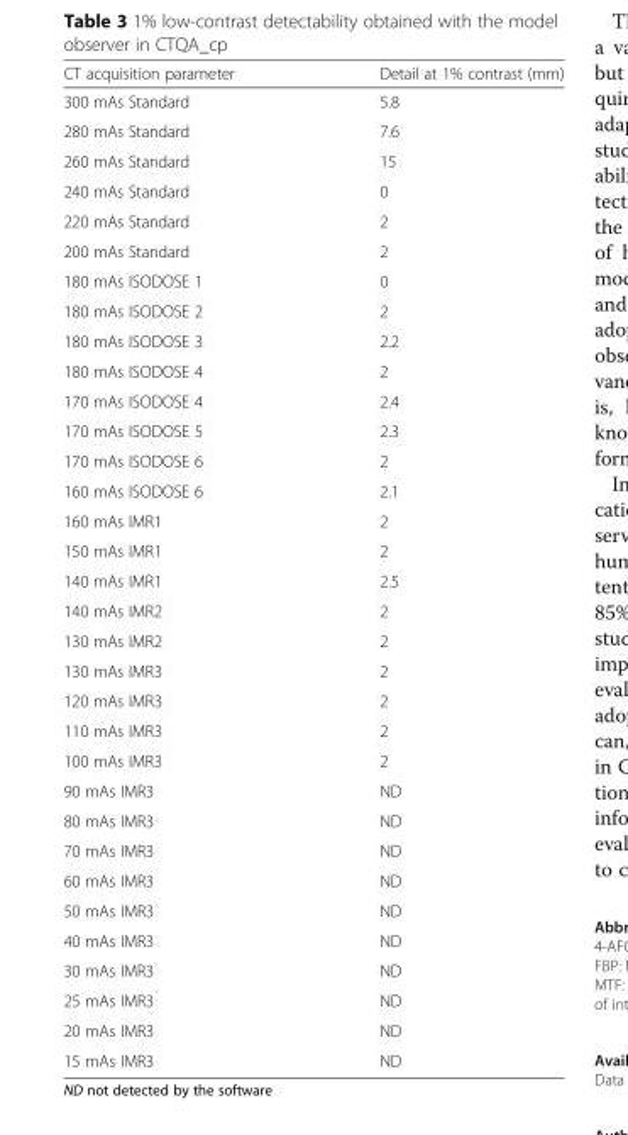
<table><thead><tr><td>CT acquisition parameter</td><td>Detail at 1% contrast (mm)</td></tr></thead><tbody><tr><td>300 mAs Standard</td><td>5.8</td></tr><tr><td>280 mAs Standard</td><td>7.6</td></tr><tr><td>260 mAs Standard</td><td>15</td></tr><tr><td>240 mAs Standard</td><td>0</td></tr><tr><td>220 mAs Standard</td><td>2</td></tr><tr><td>200 mAs Standard</td><td>2</td></tr><tr><td>180 mAs ISODOSE 1</td><td>0</td></tr><tr><td>180 mAs ISODOSE 2</td><td>2</td></tr><tr><td>180 mAs ISODOSE 3</td><td>2.2</td></tr><tr><td>180 mAs ISODOSE 4</td><td>2</td></tr><tr><td>170 mAs ISODOSE 4</td><td>2.4</td></tr><tr><td>170 mAs ISODOSE 5</td><td>2.3</td></tr><tr><td>170 mAs ISODOSE 6</td><td>2</td></tr><tr><td>160 mAs ISODOSE 6</td><td>2.1</td></tr><tr><td>160 mAs IMR1</td><td>2</td></tr><tr><td>150 mAs IMR1</td><td>2</td></tr><tr><td>140 mAs IMR1</td><td>2.5</td></tr><tr><td>140 mAs IMR2</td><td>2</td></tr><tr><td>130 mAs IMR2</td><td>2</td></tr><tr><td>130 mAs IMR3</td><td>2</td></tr><tr><td>120 mAs IMR3</td><td>2</td></tr><tr><td>110 mAs IMR3</td><td>2</td></tr><tr><td>100 mAs IMR3</td><td>2</td></tr><tr><td>90 mAs IMR3</td><td>ND</td></tr><tr><td>80 mAs IMR3</td><td>ND</td></tr><tr><td>70 mAs IMR3</td><td>ND</td></tr><tr><td>60 mAs IMR3</td><td>ND</td></tr><tr><td>50 mAs IMR3</td><td>ND</td></tr><tr><td>40 mAs IMR3</td><td>ND</td></tr><tr><td>30 mAs IMR3</td><td>ND</td></tr><tr><td>25 mAs IMR3</td><td>ND</td></tr><tr><td>20 mAs IMR3</td><td>ND</td></tr><tr><td>15 mAs IMR3</td><td>ND</td></tr></tbody></table>